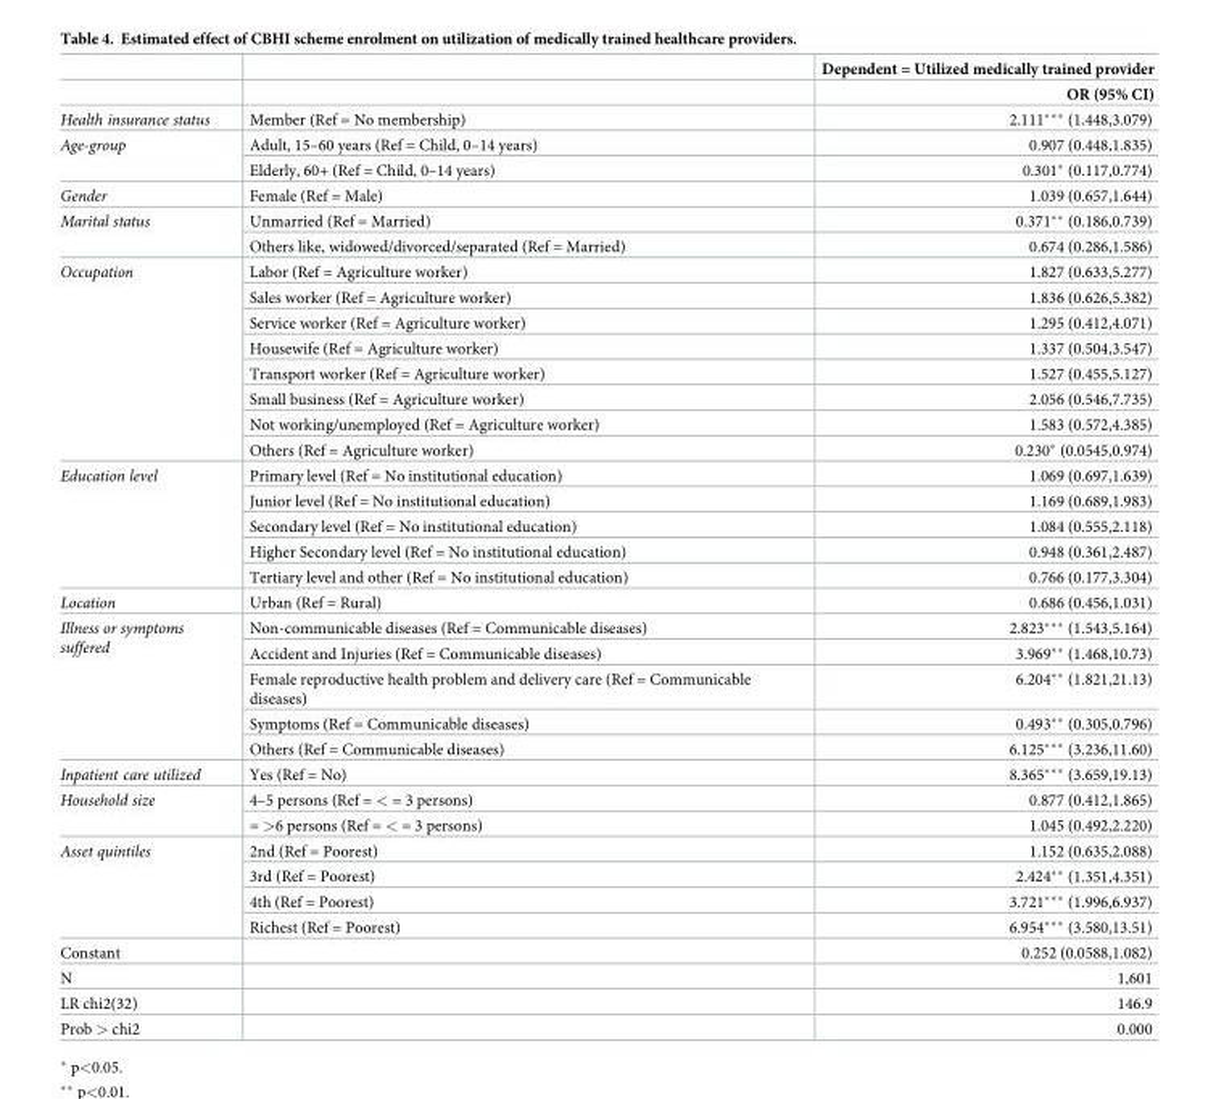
<table><thead><tr><td rowspan="2"></td><td rowspan="2"></td><td rowspan="2">Dependent = Utilized medically trained provider OR (95% CI)</td></tr><tr></tr></thead><tbody><tr><td>Health insurance status</td><td>Member (Ref = No membership)</td><td>2.111*** (1.448,3.079)</td></tr><tr><td rowspan="2">Age-group</td><td>Adult, 15–60 years (Ref = Child, 0–14 years)</td><td>0.907 (0.448,1.835)</td></tr><tr><td>Elderly, 60+ (Ref = Child, 0–14 years)</td><td>0.301* (0.117,0.774)</td></tr><tr><td>Gender</td><td>Female (Ref = Male)</td><td>1.039 (0.657,1.644)</td></tr><tr><td rowspan="2">Marital status</td><td>Unmarried (Ref = Married)</td><td>0.371** (0.186,0.739)</td></tr><tr><td>Others like, widowed/divorced/separated (Ref = Married)</td><td>0.674 (0.286,1.586)</td></tr><tr><td rowspan="8">Occupation</td><td>Labor (Ref = Agriculture worker)</td><td>1.827 (0.633,5.277)</td></tr><tr><td>Sales worker (Ref = Agriculture worker)</td><td>1.836 (0.626,5.382)</td></tr><tr><td>Service worker (Ref = Agriculture worker)</td><td>1.295 (0.412,4.071)</td></tr><tr><td>Housewife (Ref = Agriculture worker)</td><td>1.337 (0.504,3.547)</td></tr><tr><td>Transport worker (Ref = Agriculture worker)</td><td>1.527 (0.455,5.127)</td></tr><tr><td>Small business (Ref = Agriculture worker)</td><td>2.056 (0.546,7.735)</td></tr><tr><td>Not working/unemployed (Ref = Agriculture worker)</td><td>1.583 (0.572,4.385)</td></tr><tr><td>Others (Ref = Agriculture worker)</td><td>0.230* (0.0545,0.974)</td></tr><tr><td rowspan="5">Education level</td><td>Primary level (Ref = No institutional education)</td><td>1.069 (0.697,1.639)</td></tr><tr><td>Junior level (Ref = No institutional education)</td><td>1.169 (0.689,1.983)</td></tr><tr><td>Secondary level (Ref = No institutional education)</td><td>1.084 (0.555,2.118)</td></tr><tr><td>Higher Secondary level (Ref = No institutional education)</td><td>0.948 (0.361,2.487)</td></tr><tr><td>Tertiary level and other (Ref = No institutional education)</td><td>0.766 (0.177,3.304)</td></tr><tr><td>Location</td><td>Urban (Ref = Rural)</td><td>0.686 (0.456,1.031)</td></tr><tr><td rowspan="5">Illness or symptoms suffered</td><td>Non-communicable diseases (Ref = Communicable diseases)</td><td>2.823*** (1.543,5.164)</td></tr><tr><td>Accident and Injuries (Ref = Communicable diseases)</td><td>3.969** (1.468,10.73)</td></tr><tr><td>Female reproductive health problem and delivery care (Ref = Communicable diseases)</td><td>6.204** (1.821,21.13)</td></tr><tr><td>Symptoms (Ref = Communicable diseases)</td><td>0.493** (0.305,0.796)</td></tr><tr><td>Others (Ref = Communicable diseases)</td><td>6.125*** (3.236,11.60)</td></tr><tr><td>Inpatient care utilized</td><td>Yes (Ref = No)</td><td>8.365*** (3.659,19.13)</td></tr><tr><td rowspan="2">Household size</td><td>4–5 persons (Ref = &lt; = 3 persons)</td><td>0.877 (0.412,1.865)</td></tr><tr><td>= &gt;6 persons (Ref = &lt; = 3 persons)</td><td>1.045 (0.492,2.220)</td></tr><tr><td rowspan="4">Asset quintiles</td><td>2nd (Ref = Poorest)</td><td>1.152 (0.635,2.088)</td></tr><tr><td>3rd (Ref = Poorest)</td><td>2.424** (1.351,4.351)</td></tr><tr><td>4th (Ref = Poorest)</td><td>3.721*** (1.996,6.937)</td></tr><tr><td>Richest (Ref = Poorest)</td><td>6.954*** (3.580,13.51)</td></tr><tr><td>Constant</td><td></td><td>0.252 (0.0588,1.082)</td></tr><tr><td>N</td><td></td><td>1,601</td></tr><tr><td>LR chi2(32)</td><td></td><td>146.9</td></tr><tr><td>Prob &gt; chi2</td><td></td><td>0.000</td></tr></tbody></table>